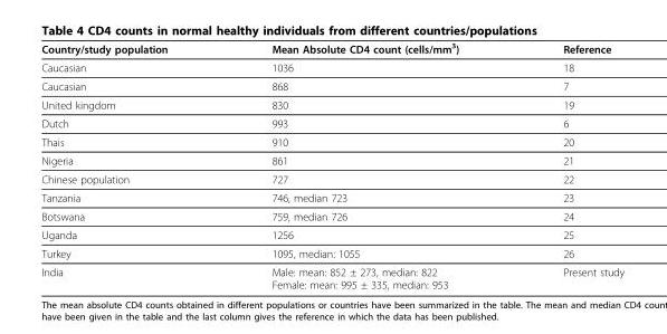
<table><thead><tr><td>Country/study population</td><td>Mean Absolute CD4 count (cells/mm<sup>3</sup>)</td><td>Reference</td></tr></thead><tbody><tr><td>Caucasian</td><td>1036</td><td>18</td></tr><tr><td>Caucasian</td><td>868</td><td>7</td></tr><tr><td>United kingdom</td><td>830</td><td>19</td></tr><tr><td>Dutch</td><td>993</td><td>6</td></tr><tr><td>Thais</td><td>910</td><td>20</td></tr><tr><td>Nigeria</td><td>861</td><td>21</td></tr><tr><td>Chinese population</td><td>727</td><td>22</td></tr><tr><td>Tanzania</td><td>746, median 723</td><td>23</td></tr><tr><td>Botswana</td><td>759, median 726</td><td>24</td></tr><tr><td>Uganda</td><td>1256</td><td>25</td></tr><tr><td>Turkey</td><td>1095, median: 1055</td><td>26</td></tr><tr><td>India</td><td>Male: mean: 852 ± 273, median: 822 Female: mean: 995 ± 335, median: 953</td><td>Present study</td></tr></tbody></table>